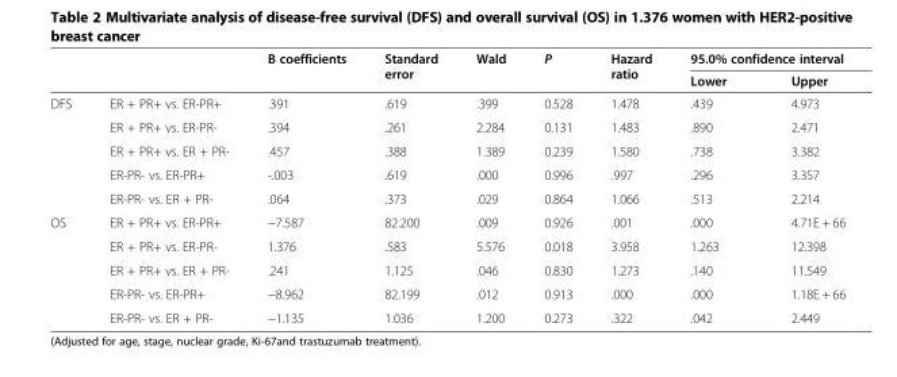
<table><thead><tr><td rowspan="2"></td><td rowspan="2"></td><td rowspan="2">B coefficients</td><td rowspan="2">Standard error</td><td rowspan="2">Wald</td><td rowspan="2">P</td><td rowspan="2">Hazard ratio</td><td colspan="2">95.0% confidence interval</td></tr><tr><td>Lower</td><td>Upper</td></tr></thead><tbody><tr><td rowspan="5">DFS</td><td>ER + PR+ vs. ER-PR+</td><td>.391</td><td>.619</td><td>.399</td><td>0.528</td><td>1.478</td><td>.439</td><td>4.973</td></tr><tr><td>ER + PR+ vs. ER-PR-</td><td>.394</td><td>.261</td><td>2.284</td><td>0.131</td><td>1.483</td><td>.890</td><td>2.471</td></tr><tr><td>ER + PR+ vs. ER + PR-</td><td>.457</td><td>.388</td><td>1.389</td><td>0.239</td><td>1.580</td><td>.738</td><td>3.382</td></tr><tr><td>ER-PR- vs. ER-PR+</td><td>-.003</td><td>.619</td><td>.000</td><td>0.996</td><td>.997</td><td>.296</td><td>3.357</td></tr><tr><td>ER-PR- vs. ER + PR-</td><td>.064</td><td>.373</td><td>.029</td><td>0.864</td><td>1.066</td><td>.513</td><td>2.214</td></tr><tr><td rowspan="5">OS</td><td>ER + PR+ vs. ER-PR+</td><td>−7.587</td><td>82.200</td><td>.009</td><td>0.926</td><td>.001</td><td>.000</td><td>4.71E + 66</td></tr><tr><td>ER + PR+ vs. ER-PR-</td><td>1.376</td><td>.583</td><td>5.576</td><td>0.018</td><td>3.958</td><td>1.263</td><td>12.398</td></tr><tr><td>ER + PR+ vs. ER + PR-</td><td>.241</td><td>1.125</td><td>.046</td><td>0.830</td><td>1.273</td><td>.140</td><td>11.549</td></tr><tr><td>ER-PR- vs. ER-PR+</td><td>−8.962</td><td>82.199</td><td>.012</td><td>0.913</td><td>.000</td><td>.000</td><td>1.18E + 66</td></tr><tr><td>ER-PR- vs. ER + PR-</td><td>−1.135</td><td>1.036</td><td>1.200</td><td>0.273</td><td>.322</td><td>.042</td><td>2.449</td></tr></tbody></table>